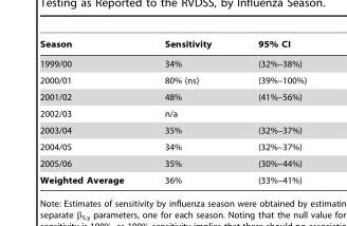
<table><thead><tr><td>Season</td><td>Sensitivity</td><td>95% CI</td></tr></thead><tbody><tr><td>1999/00</td><td>34%</td><td>(32%–38%)</td></tr><tr><td>2000/01</td><td>80% (ns)</td><td>(39%–100%)</td></tr><tr><td>2001/02</td><td>48%</td><td>(41%–56%)</td></tr><tr><td>2002/03</td><td>n/a</td><td></td></tr><tr><td>2003/04</td><td>35%</td><td>(32%–37%)</td></tr><tr><td>2004/05</td><td>34%</td><td>(32%–37%)</td></tr><tr><td>2005/06</td><td>35%</td><td>(30%–44%)</td></tr><tr><td>Weighted Average</td><td>36%</td><td>(33%–41%)</td></tr></tbody></table>